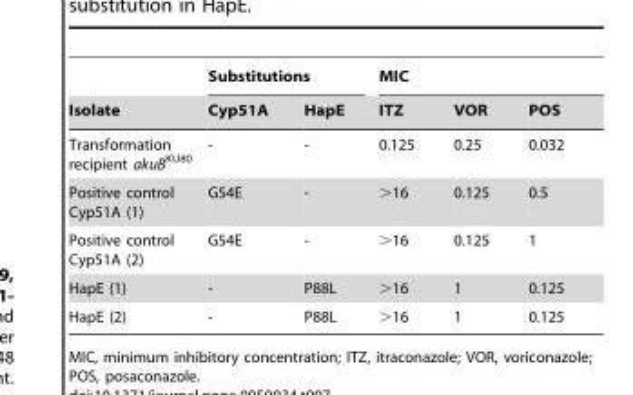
<table><thead><tr><td rowspan="2">Isolate</td><td colspan="2">Substitutions</td><td colspan="3">MIC</td></tr><tr><td>Cyp51A</td><td>HapE</td><td>ITZ</td><td>VOR</td><td>POS</td></tr></thead><tbody><tr><td>Transformation recipient akuB<sup>KU80</sup></td><td>-</td><td>-</td><td>0.125</td><td>0.25</td><td>0.032</td></tr><tr><td>Positive control Cyp51A (1)</td><td>G54E</td><td>-</td><td>&gt;16</td><td>0.125</td><td>0.5</td></tr><tr><td>Positive control Cyp51A (2)</td><td>G54E</td><td>-</td><td>&gt;16</td><td>0.125</td><td>1</td></tr><tr><td>HapE (1)</td><td>-</td><td>P88L</td><td>&gt;16</td><td>1</td><td>0.125</td></tr><tr><td>HapE (2)</td><td>-</td><td>P88L</td><td>&gt;16</td><td>1</td><td>0.125</td></tr></tbody></table>